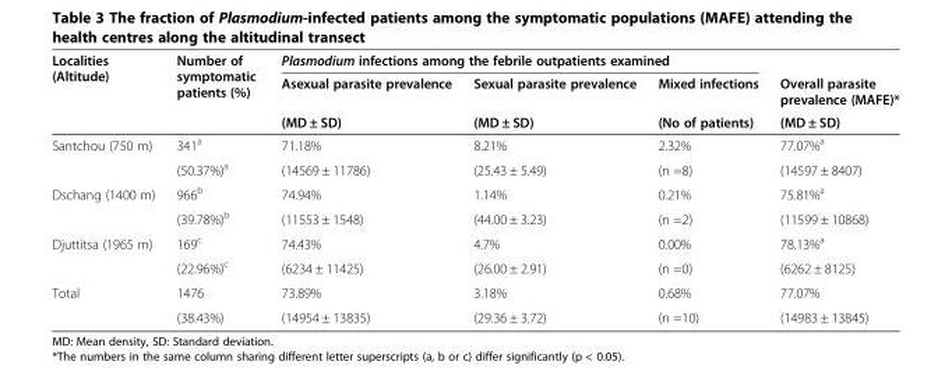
<table><thead><tr><td rowspan="3">Localities (Altitude)</td><td rowspan="3">Number of symptomatic patients (%)</td><td colspan="3">Plasmodium infections among the febrile outpatients examined</td><td rowspan="3">Overall parasite prevalence (MAFE)* (MD ± SD)</td></tr><tr><td rowspan="2">Asexual parasite prevalence (MD ± SD)</td><td rowspan="2">Sexual parasite prevalence (MD ± SD)</td><td rowspan="2">Mixed infections (No of patients)</td></tr><tr></tr></thead><tbody><tr><td rowspan="2">Santchou (750 m)</td><td>341<sup>a</sup></td><td>71.18%</td><td>8.21%</td><td>2.32%</td><td>77.07%<sup>a</sup></td></tr><tr><td>(50.37%)<sup>a</sup></td><td>(14569 ± 11786)</td><td>(25.43 ± 5.49)</td><td>(n =8)</td><td>(14597 ± 8407)</td></tr><tr><td rowspan="2">Dschang (1400 m)</td><td>966<sup>b</sup></td><td>74.94%</td><td>1.14%</td><td>0.21%</td><td>75.81%<sup>a</sup></td></tr><tr><td>(39.78%)<sup>b</sup></td><td>(11553 ± 1548)</td><td>(44.00 ± 3.23)</td><td>(n =2)</td><td>(11599 ± 10868)</td></tr><tr><td rowspan="2">Djuttitsa (1965 m)</td><td>169<sup>c</sup></td><td>74.43%</td><td>4.7%</td><td>0.00%</td><td>78.13%<sup>a</sup></td></tr><tr><td>(22.96%)<sup>c</sup></td><td>(6234 ± 11425)</td><td>(26.00 ± 2.91)</td><td>(n =0)</td><td>(6262 ± 8125)</td></tr><tr><td rowspan="2">Total</td><td>1476</td><td>73.89%</td><td>3.18%</td><td>0.68%</td><td>77.07%</td></tr><tr><td>(38.43%)</td><td>(14954 ± 13835)</td><td>(29.36 ± 3.72)</td><td>(n =10)</td><td>(14983 ± 13845)</td></tr></tbody></table>